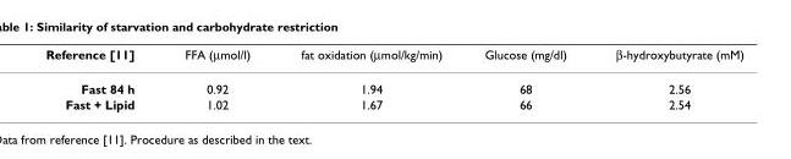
<table><thead><tr><td>Reference [11]</td><td>FFA (µmol/l)</td><td>fat oxidation (µmol/kg/min)</td><td>Glucose (mg/dl)</td><td>β-hydroxybutyrate (mM)</td></tr></thead><tbody><tr><td>Fast 84 h</td><td>0.92</td><td>1.94</td><td>68</td><td>2.56</td></tr><tr><td>Fast + Lipid</td><td>1.02</td><td>1.67</td><td>66</td><td>2.54</td></tr></tbody></table>